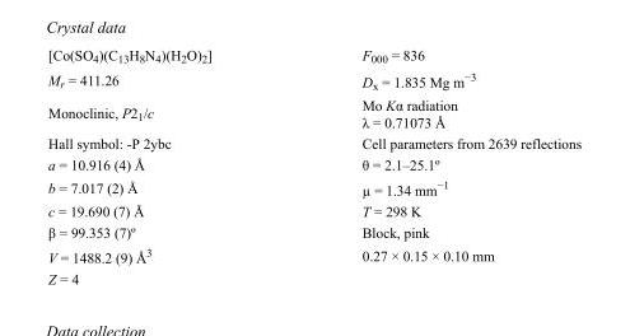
<table><tbody><tr><td>[Co(SO<sub>4</sub>)(C<sub>13</sub>H<sub>8</sub>N<sub>4</sub>)(H<sub>2</sub>O)<sub>2</sub>]</td><td>F000 = 836</td></tr><tr><td>M<sub>r</sub> = 411.26</td><td>D<sub>x</sub> = 1.835 Mg m<sup>−3</sup></td></tr><tr><td>Monoclinic, P2<sub>1</sub>/c</td><td>Mo Kα radiation λ = 0.71073 Å</td></tr><tr><td>Hall symbol: -P 2ybc</td><td>Cell parameters from 2639 reflections</td></tr><tr><td>a = 10.916 (4) Å</td><td>θ = 2.1–25.1º</td></tr><tr><td>b = 7.017 (2) Å</td><td>µ = 1.34 mm<sup>−1</sup></td></tr><tr><td>c = 19.690 (7) Å</td><td>T = 298 K</td></tr><tr><td>β = 99.353 (7)º</td><td>Block, pink</td></tr><tr><td>V = 1488.2 (9) Å<sup>3</sup></td><td>0.27 × 0.15 × 0.10 mm</td></tr><tr><td>Z = 4</td><td></td></tr></tbody></table>